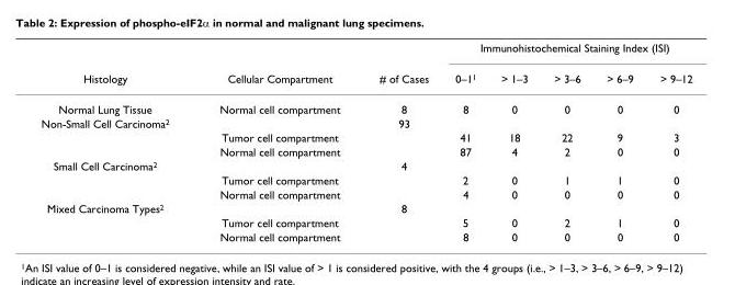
<table><thead><tr><td rowspan="2">Histology</td><td rowspan="2">Cellular Compartment</td><td rowspan="2"># of Cases</td><td colspan="5">Immunohistochemical Staining Index (ISI)</td></tr><tr><td>0–1<sup>1</sup></td><td>&gt; 1–3</td><td>&gt; 3–6</td><td>&gt; 6–9</td><td>&gt; 9–12</td></tr></thead><tbody><tr><td>Normal Lung Tissue</td><td>Normal cell compartment</td><td>8</td><td>8</td><td>0</td><td>0</td><td>0</td><td>0</td></tr><tr><td rowspan="3">Non-Small Cell Carcinoma<sup>2</sup></td><td></td><td>93</td><td></td><td></td><td></td><td></td><td></td></tr><tr><td>Tumor cell compartment</td><td></td><td>41</td><td>18</td><td>22</td><td>9</td><td>3</td></tr><tr><td>Normal cell compartment</td><td></td><td>87</td><td>4</td><td>2</td><td>0</td><td>0</td></tr><tr><td rowspan="3">Small Cell Carcinoma<sup>2</sup></td><td></td><td>4</td><td></td><td></td><td></td><td></td><td></td></tr><tr><td>Tumor cell compartment</td><td></td><td>2</td><td>0</td><td>1</td><td>1</td><td>0</td></tr><tr><td>Normal cell compartment</td><td></td><td>4</td><td>0</td><td>0</td><td>0</td><td>0</td></tr><tr><td rowspan="3">Mixed Carcinoma Types<sup>2</sup></td><td></td><td>8</td><td></td><td></td><td></td><td></td><td></td></tr><tr><td>Tumor cell compartment</td><td></td><td>5</td><td>0</td><td>2</td><td>1</td><td>0</td></tr><tr><td>Normal cell compartment</td><td></td><td>8</td><td>0</td><td>0</td><td>0</td><td>0</td></tr></tbody></table>